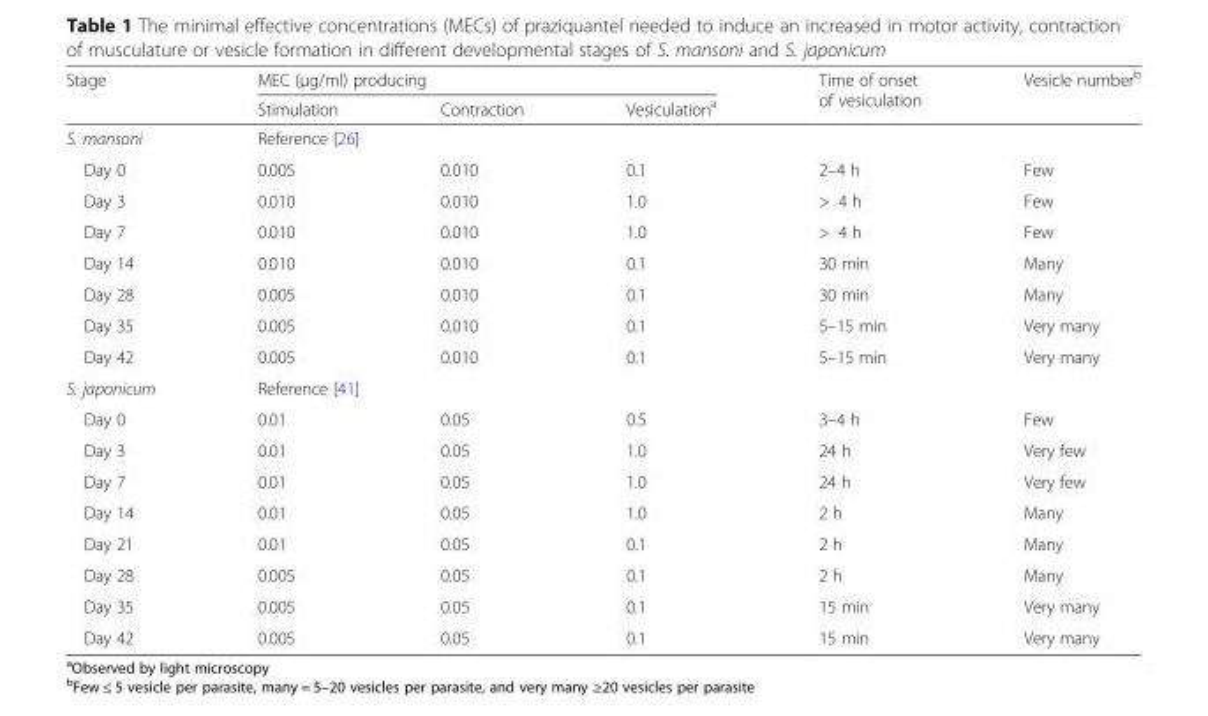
<table><thead><tr><td rowspan="2">Stage</td><td colspan="3">MEC (μg/ml) producing</td><td rowspan="2">Time of onset of vesiculation</td><td rowspan="2">Vesicle number<sup>b</sup></td></tr><tr><td>Stimulation</td><td>Contraction</td><td>Vesiculation<sup>a</sup></td></tr></thead><tbody><tr><td>S. mansoni</td><td colspan="5">Reference [26]</td></tr><tr><td>Day 0</td><td>0.005</td><td>0.010</td><td>0.1</td><td>2–4 h</td><td>Few</td></tr><tr><td>Day 3</td><td>0.010</td><td>0.010</td><td>1.0</td><td>&gt; 4 h</td><td>Few</td></tr><tr><td>Day 7</td><td>0.010</td><td>0.010</td><td>1.0</td><td>&gt; 4 h</td><td>Few</td></tr><tr><td>Day 14</td><td>0.010</td><td>0.010</td><td>0.1</td><td>30 min</td><td>Many</td></tr><tr><td>Day 28</td><td>0.005</td><td>0.010</td><td>0.1</td><td>30 min</td><td>Many</td></tr><tr><td>Day 35</td><td>0.005</td><td>0.010</td><td>0.1</td><td>5–15 min</td><td>Very many</td></tr><tr><td>Day 42</td><td>0.005</td><td>0.010</td><td>0.1</td><td>5–15 min</td><td>Very many</td></tr><tr><td>S. japonicum</td><td colspan="5">Reference [41]</td></tr><tr><td>Day 0</td><td>0.01</td><td>0.05</td><td>0.5</td><td>3–4 h</td><td>Few</td></tr><tr><td>Day 3</td><td>0.01</td><td>0.05</td><td>1.0</td><td>24 h</td><td>Very few</td></tr><tr><td>Day 7</td><td>0.01</td><td>0.05</td><td>1.0</td><td>24 h</td><td>Very few</td></tr><tr><td>Day 14</td><td>0.01</td><td>0.05</td><td>1.0</td><td>2 h</td><td>Many</td></tr><tr><td>Day 21</td><td>0.01</td><td>0.05</td><td>0.1</td><td>2 h</td><td>Many</td></tr><tr><td>Day 28</td><td>0.005</td><td>0.05</td><td>0.1</td><td>2 h</td><td>Many</td></tr><tr><td>Day 35</td><td>0.005</td><td>0.05</td><td>0.1</td><td>15 min</td><td>Very many</td></tr><tr><td>Day 42</td><td>0.005</td><td>0.05</td><td>0.1</td><td>15 min</td><td>Very many</td></tr></tbody></table>